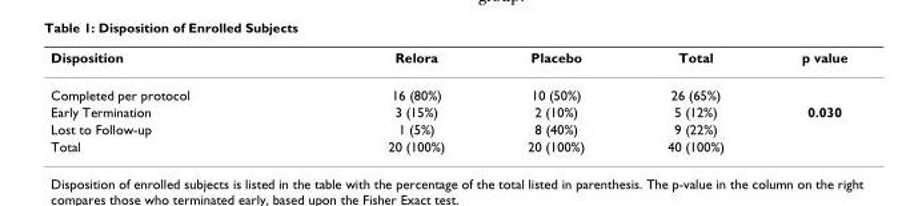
<table><thead><tr><td>Disposition</td><td>Relora</td><td>Placebo</td><td>Total</td><td>p value</td></tr></thead><tbody><tr><td>Completed per protocol</td><td>16 (80%)</td><td>10 (50%)</td><td>26 (65%)</td><td></td></tr><tr><td>Early Termination</td><td>3 (15%)</td><td>2 (10%)</td><td>5 (12%)</td><td>0.030</td></tr><tr><td>Lost to Follow-up</td><td>1 (5%)</td><td>8 (40%)</td><td>9 (22%)</td><td></td></tr><tr><td>Total</td><td>20 (100%)</td><td>20 (100%)</td><td>40 (100%)</td><td></td></tr></tbody></table>